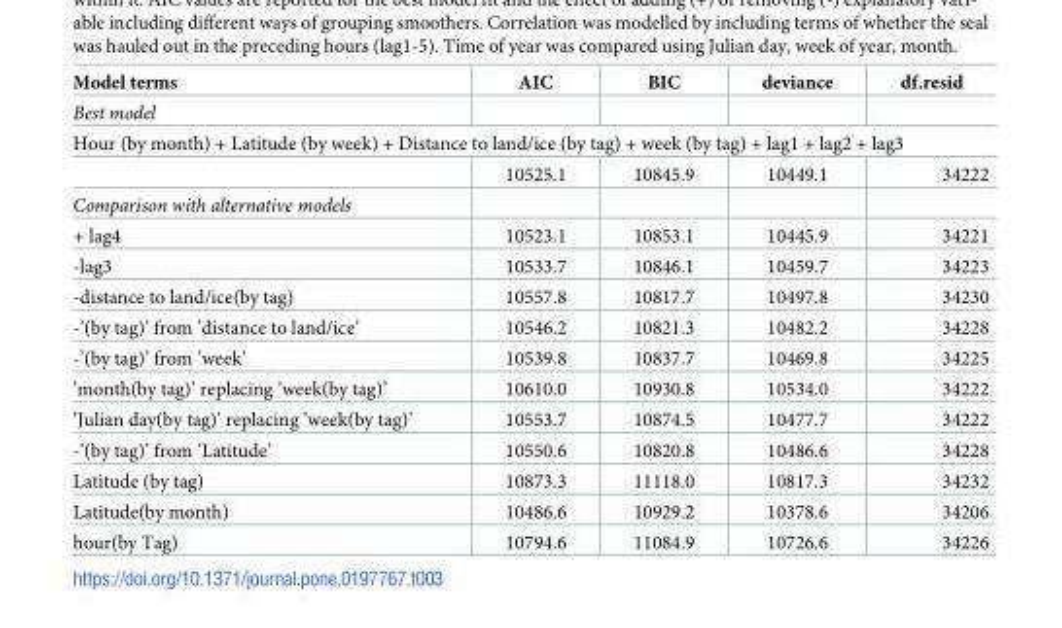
<table><thead><tr><td>Model terms</td><td>AIC</td><td>BIC</td><td>deviance</td><td>df.resid</td></tr></thead><tbody><tr><td colspan="5">Best model</td></tr><tr><td colspan="5">Hour (by month) + Latitude (by week) + Distance to land/ice (by tag) + week (by tag) + lag1 + lag2 + lag3</td></tr><tr><td></td><td>10525.1</td><td>10845.9</td><td>10449.1</td><td>34222</td></tr><tr><td colspan="5">Comparison with alternative models</td></tr><tr><td>+ lag4</td><td>10523.1</td><td>10853.1</td><td>10445.9</td><td>34221</td></tr><tr><td>-lag3</td><td>10533.7</td><td>10846.1</td><td>10459.7</td><td>34223</td></tr><tr><td>-distance to land/ice(by tag)</td><td>10557.8</td><td>10817.7</td><td>10497.8</td><td>34230</td></tr><tr><td>-’(by tag)’ from ’distance to land/ice’</td><td>10546.2</td><td>10821.3</td><td>10482.2</td><td>34228</td></tr><tr><td>-’(by tag)’ from ’week’</td><td>10539.8</td><td>10837.7</td><td>10469.8</td><td>34225</td></tr><tr><td>’month(by tag)’ replacing ’week(by tag)’</td><td>10610.0</td><td>10930.8</td><td>10534.0</td><td>34222</td></tr><tr><td>’Julian day(by tag)’ replacing ’week(by tag)’</td><td>10553.7</td><td>10874.5</td><td>10477.7</td><td>34222</td></tr><tr><td>-’(by tag)’ from ’Latitude’</td><td>10550.6</td><td>10820.8</td><td>10486.6</td><td>34228</td></tr><tr><td>Latitude (by tag)</td><td>10873.3</td><td>11118.0</td><td>10817.3</td><td>34232</td></tr><tr><td>Latitude(by month)</td><td>10486.6</td><td>10929.2</td><td>10378.6</td><td>34206</td></tr><tr><td>hour(by Tag)</td><td>10794.6</td><td>11084.9</td><td>10726.6</td><td>34226</td></tr></tbody></table>